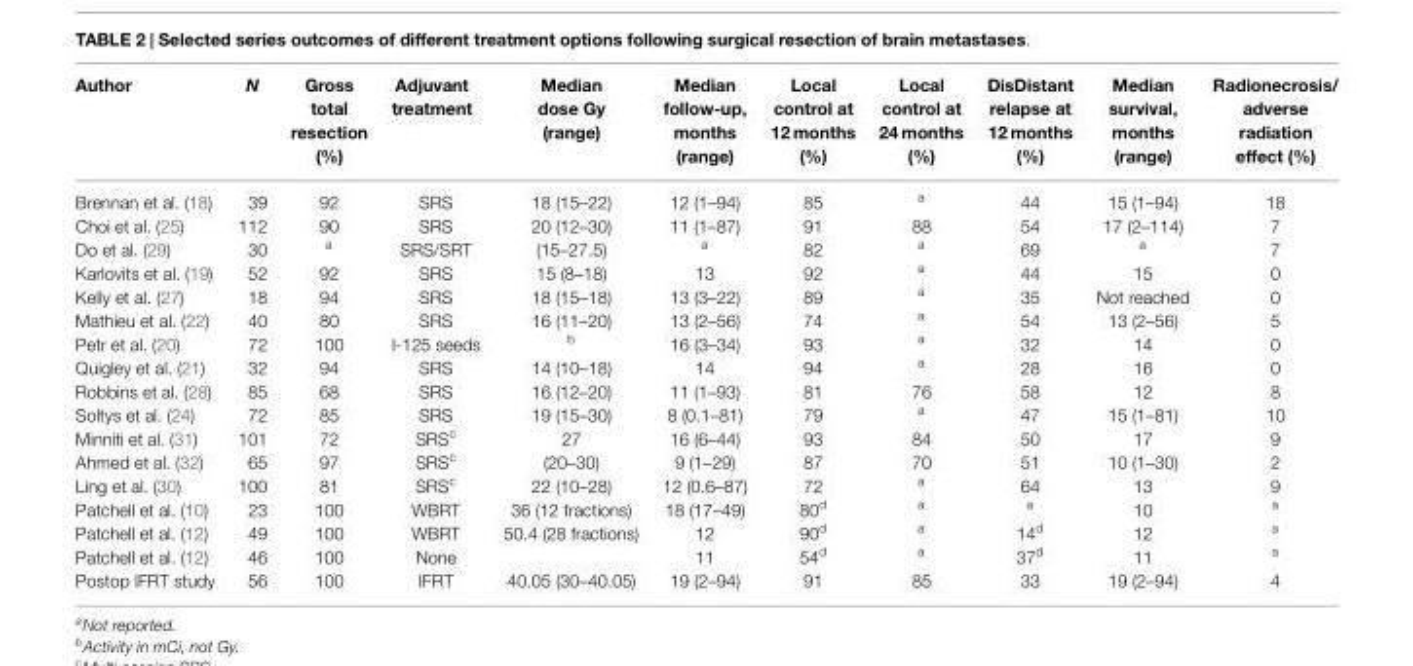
<table><thead><tr><td>Author</td><td>N</td><td>Gross total resection (%)</td><td>Adjuvant treatment</td><td>Median dose Gy (range)</td><td>Median follow-up, months (range)</td><td>Local control at 12 months (%)</td><td>Local control at 24 months (%)</td><td>DisDistant relapse at 12 months (%)</td><td>Median survival, months (range)</td><td>Radionecrosis/ adverse radiation effect (%)</td></tr></thead><tbody><tr><td>Brennan et al. (18)</td><td>39</td><td>92</td><td>SRS</td><td>18 (15–22)</td><td>12 (1–94)</td><td>85</td><td><sup>a</sup></td><td>44</td><td>15 (1–94)</td><td>18</td></tr><tr><td>Choi et al. (25)</td><td>112</td><td>90</td><td>SRS</td><td>20 (12–30)</td><td>11 (1–87)</td><td>91</td><td>88</td><td>54</td><td>17 (2–114)</td><td>7</td></tr><tr><td>Do et al. (29)</td><td>30</td><td><sup>a</sup></td><td>SRS/SRT</td><td>(15–27.5)</td><td><sup>a</sup></td><td>82</td><td><sup>a</sup></td><td>69</td><td><sup>a</sup></td><td>7</td></tr><tr><td>Karlovits et al. (19)</td><td>52</td><td>92</td><td>SRS</td><td>15 (8–18)</td><td>13</td><td>92</td><td><sup>a</sup></td><td>44</td><td>15</td><td>0</td></tr><tr><td>Kelly et al. (27)</td><td>18</td><td>94</td><td>SRS</td><td>18 (15–18)</td><td>13 (3–22)</td><td>89</td><td><sup>a</sup></td><td>35</td><td>Not reached</td><td>0</td></tr><tr><td>Mathieu et al. (22)</td><td>40</td><td>80</td><td>SRS</td><td>16 (11–20)</td><td>13 (2–56)</td><td>74</td><td><sup>a</sup></td><td>54</td><td>13 (2–56)</td><td>5</td></tr><tr><td>Petr et al. (20)</td><td>72</td><td>100</td><td>I-125 seeds</td><td><sup>b</sup></td><td>16 (3–34)</td><td>93</td><td><sup>a</sup></td><td>32</td><td>14</td><td>0</td></tr><tr><td>Quigley et al. (21)</td><td>32</td><td>94</td><td>SRS</td><td>14 (10–18)</td><td>14</td><td>94</td><td><sup>a</sup></td><td>28</td><td>16</td><td>0</td></tr><tr><td>Robbins et al. (28)</td><td>85</td><td>68</td><td>SRS</td><td>16 (12–20)</td><td>11 (1–93)</td><td>81</td><td>76</td><td>58</td><td>12</td><td>8</td></tr><tr><td>Soltys et al. (24)</td><td>72</td><td>85</td><td>SRS</td><td>19 (15–30)</td><td>8 (0.1–81)</td><td>79</td><td><sup>a</sup></td><td>47</td><td>15 (1–81)</td><td>10</td></tr><tr><td>Minniti et al. (31)</td><td>101</td><td>72</td><td>SRS<sup>c</sup></td><td>27</td><td>16 (6–44)</td><td>93</td><td>84</td><td>50</td><td>17</td><td>9</td></tr><tr><td>Ahmed et al. (32)</td><td>65</td><td>97</td><td>SRS<sup>c</sup></td><td>(20–30)</td><td>9 (1–29)</td><td>87</td><td>70</td><td>51</td><td>10 (1–30)</td><td>2</td></tr><tr><td>Ling et al. (30)</td><td>100</td><td>81</td><td>SRS<sup>c</sup></td><td>22 (10–28)</td><td>12 (0.6–87)</td><td>72</td><td><sup>a</sup></td><td>64</td><td>13</td><td>9</td></tr><tr><td>Patchell et al. (10)</td><td>23</td><td>100</td><td>WBRT</td><td>36 (12 fractions)</td><td>18 (17–49)</td><td>80<sup>d</sup></td><td><sup>a</sup></td><td><sup>a</sup></td><td>10</td><td><sup>a</sup></td></tr><tr><td>Patchell et al. (12)</td><td>49</td><td>100</td><td>WBRT</td><td>50.4 (28 fractions)</td><td>12</td><td>90<sup>d</sup></td><td><sup>a</sup></td><td>14<sup>d</sup></td><td>12</td><td><sup>a</sup></td></tr><tr><td>Patchell et al. (12)</td><td>46</td><td>100</td><td>None</td><td></td><td>11</td><td>54<sup>d</sup></td><td><sup>a</sup></td><td>37<sup>d</sup></td><td>11</td><td><sup>a</sup></td></tr><tr><td>Postop IFRT study</td><td>56</td><td>100</td><td>IFRT</td><td>40.05 (30–40.05)</td><td>19 (2–94)</td><td>91</td><td>85</td><td>33</td><td>19 (2–94)</td><td>4</td></tr></tbody></table>